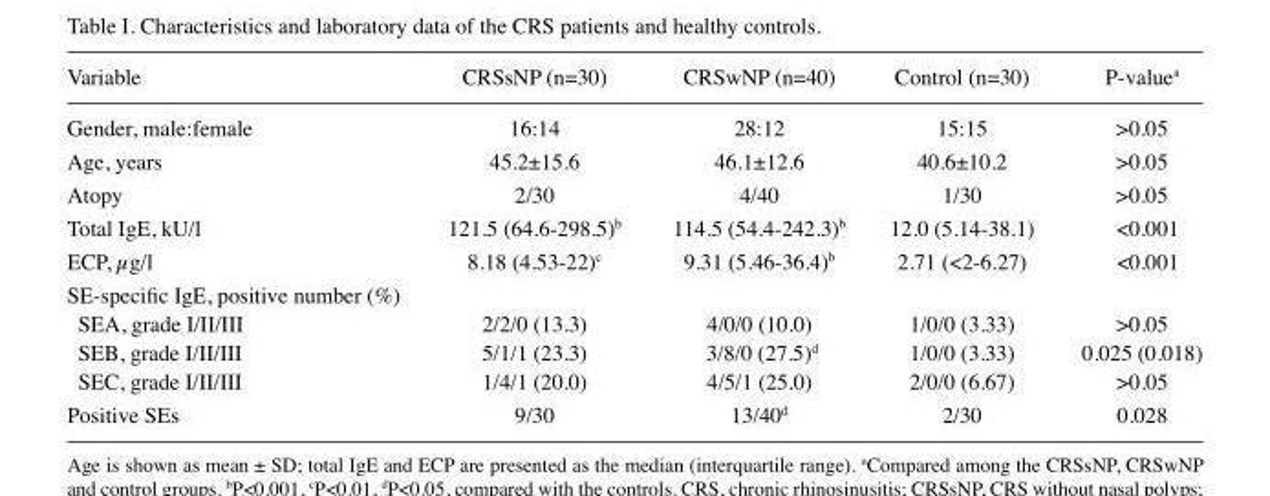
<table><thead><tr><td>Variable</td><td>CRSsNP (n=30)</td><td>CRSwNP (n=40)</td><td>Control (n=30)</td><td>P-value<sup>a</sup></td></tr></thead><tbody><tr><td>Gender, male:female</td><td>16:14</td><td>28:12</td><td>15:15</td><td>&gt;0.05</td></tr><tr><td>Age, years</td><td>45.2±15.6</td><td>46.1±12.6</td><td>40.6±10.2</td><td>&gt;0.05</td></tr><tr><td>Atopy</td><td>2/30</td><td>4/40</td><td>1/30</td><td>&gt;0.05</td></tr><tr><td>Total IgE, kU/l</td><td>121.5 (64.6-298.5)<sup>b</sup></td><td>114.5 (54.4-242.3)<sup>b</sup></td><td>12.0 (5.14-38.1)</td><td>&lt;0.001</td></tr><tr><td>ECP, µg/l</td><td>8.18 (4.53-22)<sup>c</sup></td><td>9.31 (5.46-36.4)<sup>b</sup></td><td>2.71 (&lt;2-6.27)</td><td>&lt;0.001</td></tr><tr><td colspan="5">SE‑specific IgE, positive number (%)</td></tr><tr><td>SEA, grade I/II/III</td><td>2/2/0 (13.3)</td><td>4/0/0 (10.0)</td><td>1/0/0 (3.33)</td><td>&gt;0.05</td></tr><tr><td>SEB, grade I/II/III</td><td>5/1/1 (23.3)</td><td>3/8/0 (27.5)<sup>d</sup></td><td>1/0/0 (3.33)</td><td>0.025 (0.018)</td></tr><tr><td>SEC, grade I/II/III</td><td>1/4/1 (20.0)</td><td>4/5/1 (25.0)</td><td>2/0/0 (6.67)</td><td>&gt;0.05</td></tr><tr><td>Positive SEs</td><td>9/30</td><td>13/40<sup>d</sup></td><td>2/30</td><td>0.028</td></tr></tbody></table>